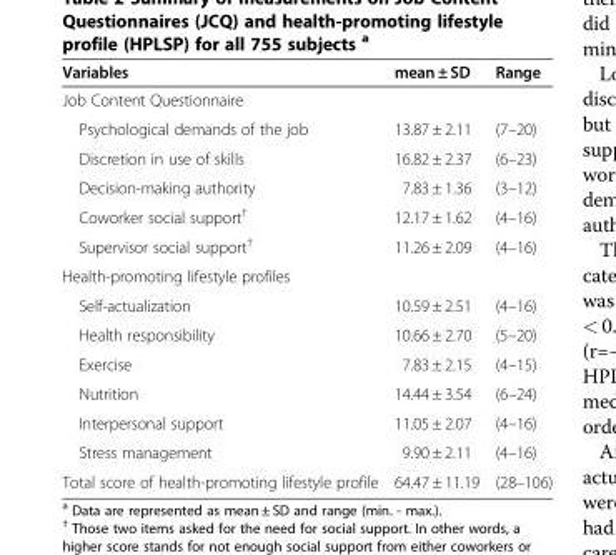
<table><thead><tr><td>Variables</td><td>mean ± SD</td><td>Range</td></tr></thead><tbody><tr><td colspan="3">Job Content Questionnaire</td></tr><tr><td>Psychological demands of the job</td><td>13.87 ± 2.11</td><td>(7–20)</td></tr><tr><td>Discretion in use of skills</td><td>16.82 ± 2.37</td><td>(6–23)</td></tr><tr><td>Decision-making authority</td><td>7.83 ± 1.36</td><td>(3–12)</td></tr><tr><td>Coworker social support<sup>†</sup></td><td>12.17 ± 1.62</td><td>(4–16)</td></tr><tr><td>Supervisor social support<sup>†</sup></td><td>11.26 ± 2.09</td><td>(4–16)</td></tr><tr><td colspan="3">Health-promoting lifestyle profiles</td></tr><tr><td>Self-actualization</td><td>10.59 ± 2.51</td><td>(4–16)</td></tr><tr><td>Health responsibility</td><td>10.66 ± 2.70</td><td>(5–20)</td></tr><tr><td>Exercise</td><td>7.83 ± 2.15</td><td>(4–15)</td></tr><tr><td>Nutrition</td><td>14.44 ± 3.54</td><td>(6–24)</td></tr><tr><td>Interpersonal support</td><td>11.05 ± 2.07</td><td>(4–16)</td></tr><tr><td>Stress management</td><td>9.90 ± 2.11</td><td>(4–16)</td></tr><tr><td>Total score of health-promoting lifestyle profile</td><td>64.47 ± 11.19</td><td>(28–106)</td></tr></tbody></table>